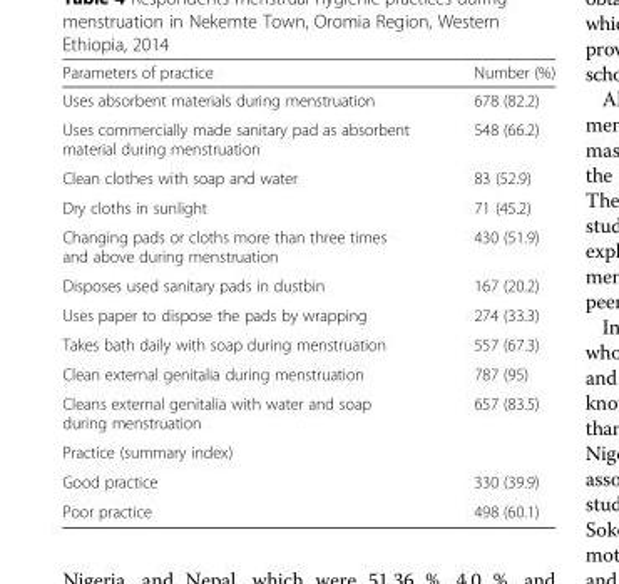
<table><thead><tr><td>Parameters of practice</td><td>Number (%)</td></tr></thead><tbody><tr><td>Uses absorbent materials during menstruation</td><td>678 (82.2)</td></tr><tr><td>Uses commercially made sanitary pad as absorbent material during menstruation</td><td>548 (66.2)</td></tr><tr><td>Clean clothes with soap and water</td><td>83 (52.9)</td></tr><tr><td>Dry cloths in sunlight</td><td>71 (45.2)</td></tr><tr><td>Changing pads or cloths more than three times and above during menstruation</td><td>430 (51.9)</td></tr><tr><td>Disposes used sanitary pads in dustbin</td><td>167 (20.2)</td></tr><tr><td>Uses paper to dispose the pads by wrapping</td><td>274 (33.3)</td></tr><tr><td>Takes bath daily with soap during menstruation</td><td>557 (67.3)</td></tr><tr><td>Clean external genitalia during menstruation</td><td>787 (95)</td></tr><tr><td>Cleans external genitalia with water and soap during menstruation</td><td>657 (83.5)</td></tr><tr><td colspan="2">Practice (summary index)</td></tr><tr><td>Good practice</td><td>330 (39.9)</td></tr><tr><td>Poor practice</td><td>498 (60.1)</td></tr></tbody></table>